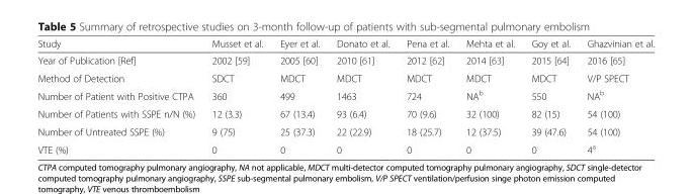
<table><thead><tr><td>Study</td><td>Musset et al.</td><td>Eyer et al.</td><td>Donato et al.</td><td>Pena et al.</td><td>Mehta et al.</td><td>Goy et al.</td><td>Ghazvinian et al.</td></tr></thead><tbody><tr><td>Year of Publication [Ref]</td><td>2002 [59]</td><td>2005 [60]</td><td>2010 [61]</td><td>2012 [62]</td><td>2014 [63]</td><td>2015 [64]</td><td>2016 [65]</td></tr><tr><td>Method of Detection</td><td>SDCT</td><td>MDCT</td><td>MDCT</td><td>MDCT</td><td>MDCT</td><td>MDCT</td><td>V/P SPECT</td></tr><tr><td>Number of Patient with Positive CTPA</td><td>360</td><td>499</td><td>1463</td><td>724</td><td>NA<sup>b</sup></td><td>550</td><td>NA<sup>b</sup></td></tr><tr><td>Number of Patients with SSPE n/N (%)</td><td>12 (3.3)</td><td>67 (13.4)</td><td>93 (6.4)</td><td>70 (9.6)</td><td>32 (100)</td><td>82 (15)</td><td>54 (100)</td></tr><tr><td>Number of Untreated SSPE (%)</td><td>9 (75)</td><td>25 (37.3)</td><td>22 (22.9)</td><td>18 (25.7)</td><td>12 (37.5)</td><td>39 (47.6)</td><td>54 (100)</td></tr><tr><td>VTE (%)</td><td>0</td><td>0</td><td>0</td><td>0</td><td>0</td><td>0</td><td>4<sup>a</sup></td></tr></tbody></table>